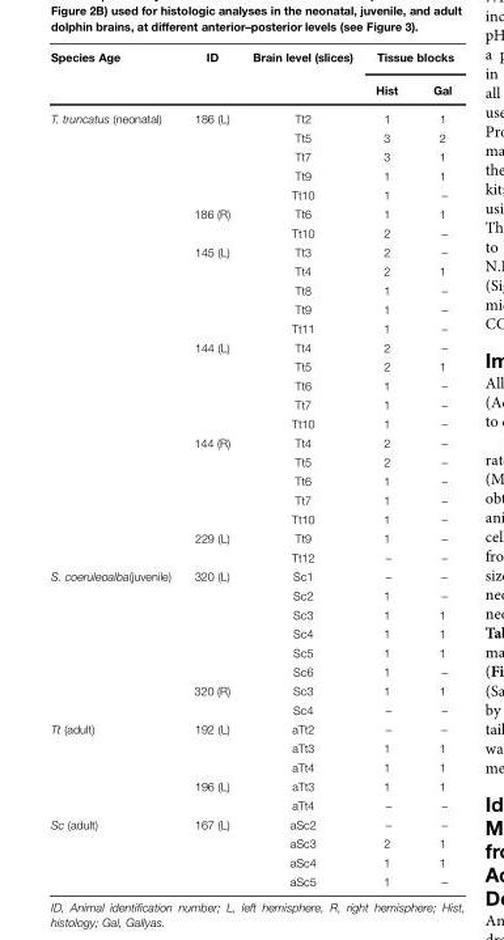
<table><thead><tr><td rowspan="2">Species Age</td><td rowspan="2">ID</td><td rowspan="2">Brain level (slices)</td><td colspan="2">Tissue blocks</td></tr><tr><td>Hist</td><td>Gal</td></tr></thead><tbody><tr><td rowspan="24">T. truncatus (neonatal)</td><td>186 (L)</td><td>Tt2</td><td>1</td><td>1</td></tr><tr><td></td><td>Tt5</td><td>3</td><td>2</td></tr><tr><td></td><td>Tt7</td><td>3</td><td>1</td></tr><tr><td></td><td>Tt9</td><td>1</td><td>1</td></tr><tr><td></td><td>Tt10</td><td>1</td><td>–</td></tr><tr><td>186 (R)</td><td>Tt6</td><td>1</td><td>1</td></tr><tr><td></td><td>Tt10</td><td>2</td><td>–</td></tr><tr><td>145 (L)</td><td>Tt3</td><td>2</td><td>–</td></tr><tr><td></td><td>Tt4</td><td>2</td><td>1</td></tr><tr><td></td><td>Tt8</td><td>1</td><td>–</td></tr><tr><td></td><td>Tt9</td><td>1</td><td>–</td></tr><tr><td></td><td>Tt11</td><td>1</td><td>–</td></tr><tr><td>144 (L)</td><td>Tt4</td><td>2</td><td>–</td></tr><tr><td></td><td>Tt5</td><td>2</td><td>1</td></tr><tr><td></td><td>Tt6</td><td>1</td><td>–</td></tr><tr><td></td><td>Tt7</td><td>1</td><td>–</td></tr><tr><td></td><td>Tt10</td><td>1</td><td>–</td></tr><tr><td>144 (R)</td><td>Tt4</td><td>2</td><td>–</td></tr><tr><td></td><td>Tt5</td><td>2</td><td>–</td></tr><tr><td></td><td>Tt6</td><td>1</td><td>–</td></tr><tr><td></td><td>Tt7</td><td>1</td><td>–</td></tr><tr><td></td><td>Tt10</td><td>1</td><td>–</td></tr><tr><td>229 (L)</td><td>Tt9</td><td>1</td><td>–</td></tr><tr><td></td><td>Tt12</td><td>–</td><td>–</td></tr><tr><td rowspan="8">S. coeruleoalba(juvenile)</td><td>320 (L)</td><td>Sc1</td><td>–</td><td>–</td></tr><tr><td></td><td>Sc2</td><td>1</td><td>–</td></tr><tr><td></td><td>Sc3</td><td>1</td><td>1</td></tr><tr><td></td><td>Sc4</td><td>1</td><td>1</td></tr><tr><td></td><td>Sc5</td><td>1</td><td>1</td></tr><tr><td></td><td>Sc6</td><td>1</td><td>–</td></tr><tr><td>320 (R)</td><td>Sc3</td><td>1</td><td>1</td></tr><tr><td></td><td>Sc4</td><td>–</td><td>–</td></tr><tr><td rowspan="5">Tt (adult)</td><td>192 (L)</td><td>aTt2</td><td>–</td><td>–</td></tr><tr><td></td><td>aTt3</td><td>1</td><td>1</td></tr><tr><td></td><td>aTt4</td><td>1</td><td>1</td></tr><tr><td>196 (L)</td><td>aTt3</td><td>1</td><td>1</td></tr><tr><td></td><td>aTt4</td><td>–</td><td>–</td></tr><tr><td rowspan="4">Sc (adult)</td><td>167 (L)</td><td>aSc2</td><td>–</td><td>–</td></tr><tr><td></td><td>aSc3</td><td>2</td><td>1</td></tr><tr><td></td><td>aSc4</td><td>1</td><td>1</td></tr><tr><td></td><td>aSc5</td><td>1</td><td>–</td></tr></tbody></table>